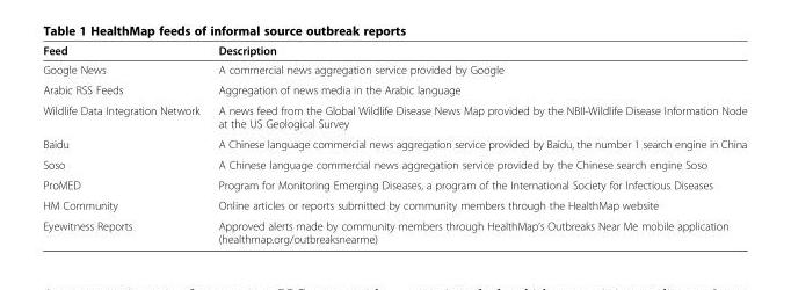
<table><thead><tr><td>Feed</td><td>Description</td></tr></thead><tbody><tr><td>Google News</td><td>A commercial news aggregation service provided by Google</td></tr><tr><td>Arabic RSS Feeds</td><td>Aggregation of news media in the Arabic language</td></tr><tr><td>Wildlife Data Integration Network</td><td>A news feed from the Global Wildlife Disease News Map provided by the NBII-Wildlife Disease Information Node at the US Geological Survey</td></tr><tr><td>Baidu</td><td>A Chinese language commercial news aggregation service provided by Baidu, the number 1 search engine in China</td></tr><tr><td>Soso</td><td>A Chinese language commercial news aggregation service provided by the Chinese search engine Soso</td></tr><tr><td>ProMED</td><td>Program for Monitoring Emerging Diseases, a program of the International Society for Infectious Diseases</td></tr><tr><td>HM Community</td><td>Online articles or reports submitted by community members through the HealthMap website</td></tr><tr><td>Eyewitness Reports</td><td>Approved alerts made by community members through HealthMap’s Outbreaks Near Me mobile application (healthmap.org/outbreaksnearme)</td></tr></tbody></table>